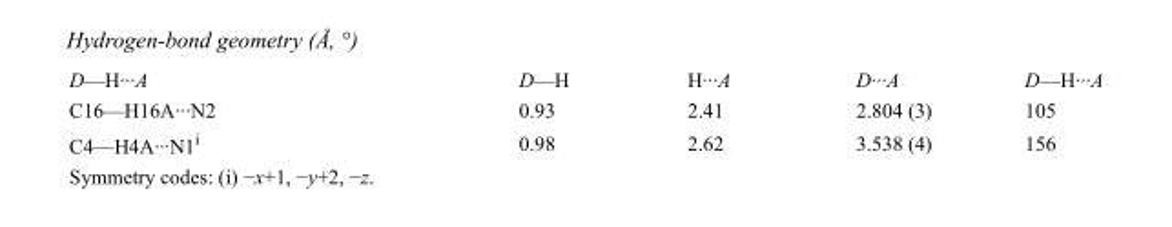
<table><tbody><tr><td>D—H···A</td><td>D—H</td><td>H···A</td><td>D···A</td><td>D—H···A</td></tr><tr><td>C16—H16A···N2</td><td>0.93</td><td>2.41</td><td>2.804 (3)</td><td>105</td></tr><tr><td>C4—H4A···N1<sup>i</sup></td><td>0.98</td><td>2.62</td><td>3.538 (4)</td><td>156</td></tr></tbody></table>